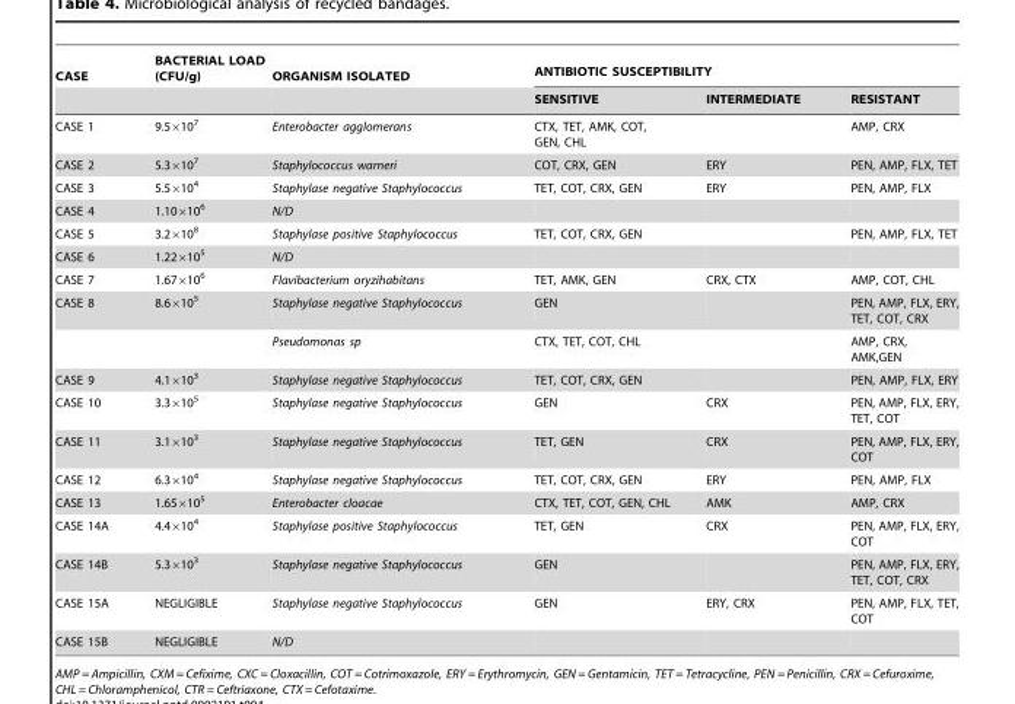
<table><thead><tr><td rowspan="2">CASE</td><td rowspan="2">BACTERIAL LOAD (CFU/g)</td><td rowspan="2">ORGANISM ISOLATED</td><td colspan="3">ANTIBIOTIC SUSCEPTIBILITY</td></tr><tr><td>SENSITIVE</td><td>INTERMEDIATE</td><td>RESISTANT</td></tr></thead><tbody><tr><td>CASE 1</td><td>9.5×10<sup>7</sup></td><td>Enterobacter agglomerans</td><td>CTX, TET, AMK, COT, GEN, CHL</td><td></td><td>AMP, CRX</td></tr><tr><td>CASE 2</td><td>5.3×10<sup>7</sup></td><td>Staphylococcus warneri</td><td>COT, CRX, GEN</td><td>ERY</td><td>PEN, AMP, FLX, TET</td></tr><tr><td>CASE 3</td><td>5.5×10<sup>4</sup></td><td>Staphylase negative Staphylococcus</td><td>TET, COT, CRX, GEN</td><td>ERY</td><td>PEN, AMP, FLX</td></tr><tr><td>CASE 4</td><td>1.10×10<sup>6</sup></td><td>N/D</td><td></td><td></td><td></td></tr><tr><td>CASE 5</td><td>3.2×10<sup>8</sup></td><td>Staphylase positive Staphylococcus</td><td>TET, COT, CRX, GEN</td><td></td><td>PEN, AMP, FLX, TET</td></tr><tr><td>CASE 6</td><td>1.22×10<sup>5</sup></td><td>N/D</td><td></td><td></td><td></td></tr><tr><td>CASE 7</td><td>1.67×10<sup>6</sup></td><td>Flavibacterium oryzihabitans</td><td>TET, AMK, GEN</td><td>CRX, CTX</td><td>AMP, COT, CHL</td></tr><tr><td rowspan="2">CASE 8</td><td>8.6×10<sup>5</sup></td><td>Staphylase negative Staphylococcus</td><td>GEN</td><td></td><td>PEN, AMP, FLX, ERY, TET, COT, CRX</td></tr><tr><td></td><td>Pseudomonas sp</td><td>CTX, TET, COT, CHL</td><td></td><td>AMP, CRX, AMK,GEN</td></tr><tr><td>CASE 9</td><td>4.1×10<sup>3</sup></td><td>Staphylase negative Staphylococcus</td><td>TET, COT, CRX, GEN</td><td></td><td>PEN, AMP, FLX, ERY</td></tr><tr><td>CASE 10</td><td>3.3×10<sup>5</sup></td><td>Staphylase negative Staphylococcus</td><td>GEN</td><td>CRX</td><td>PEN, AMP, FLX, ERY, TET, COT</td></tr><tr><td>CASE 11</td><td>3.1×10<sup>3</sup></td><td>Staphylase negative Staphylococcus</td><td>TET, GEN</td><td>CRX</td><td>PEN, AMP, FLX, ERY, COT</td></tr><tr><td>CASE 12</td><td>6.3×10<sup>4</sup></td><td>Staphylase negative Staphylococcus</td><td>TET, COT, CRX, GEN</td><td>ERY</td><td>PEN, AMP, FLX</td></tr><tr><td>CASE 13</td><td>1.65×10<sup>5</sup></td><td>Enterobacter cloacae</td><td>CTX, TET, COT, GEN, CHL</td><td>AMK</td><td>AMP, CRX</td></tr><tr><td>CASE 14A</td><td>4.4×10<sup>4</sup></td><td>Staphylase positive Staphylococcus</td><td>TET, GEN</td><td>CRX</td><td>PEN, AMP, FLX, ERY, COT</td></tr><tr><td>CASE 14B</td><td>5.3×10<sup>3</sup></td><td>Staphylase negative Staphylococcus</td><td>GEN</td><td></td><td>PEN, AMP, FLX, ERY, TET, COT, CRX</td></tr><tr><td>CASE 15A</td><td>NEGLIGIBLE</td><td>Staphylase negative Staphylococcus</td><td>GEN</td><td>ERY, CRX</td><td>PEN, AMP, FLX, TET, COT</td></tr><tr><td>CASE 15B</td><td>NEGLIGIBLE</td><td>N/D</td><td></td><td></td><td></td></tr></tbody></table>